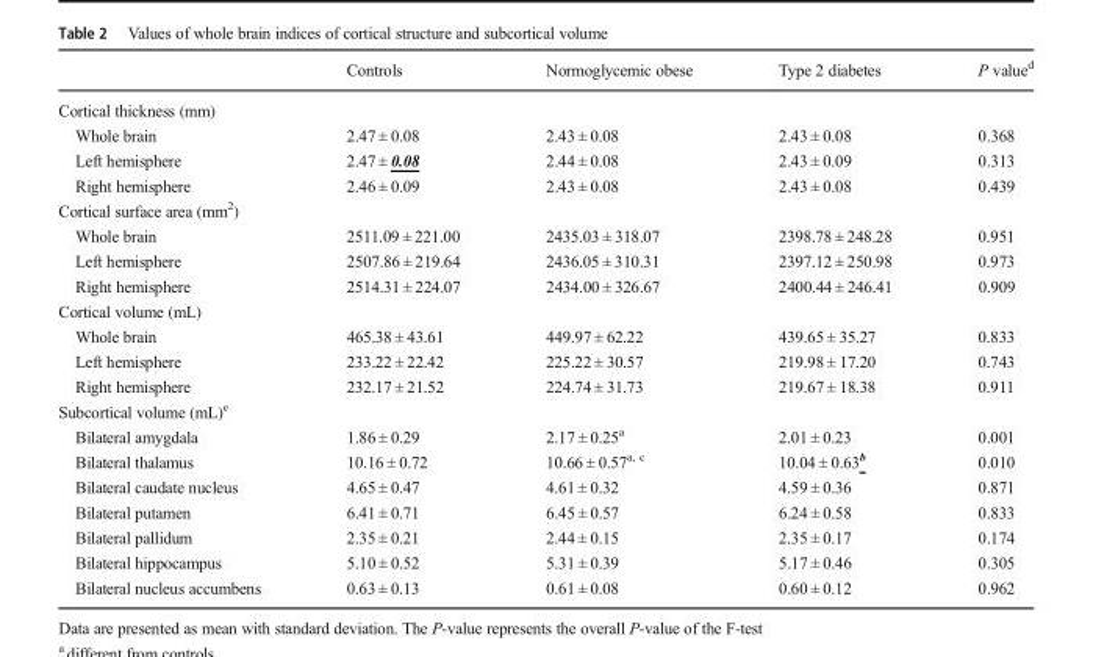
<table><thead><tr><td></td><td>Controls</td><td>Normoglycemic obese</td><td>Type 2 diabetes</td><td>P value<sup>d</sup></td></tr></thead><tbody><tr><td colspan="5">Cortical thickness (mm)</td></tr><tr><td>Whole brain</td><td>2.47 ± 0.08</td><td>2.43 ± 0.08</td><td>2.43 ± 0.08</td><td>0.368</td></tr><tr><td>Left hemisphere</td><td>2.47 ± 0.08</td><td>2.44 ± 0.08</td><td>2.43 ± 0.09</td><td>0.313</td></tr><tr><td>Right hemisphere</td><td>2.46 ± 0.09</td><td>2.43 ± 0.08</td><td>2.43 ± 0.08</td><td>0.439</td></tr><tr><td colspan="5">Cortical surface area (mm<sup>2</sup>)</td></tr><tr><td>Whole brain</td><td>2511.09 ± 221.00</td><td>2435.03 ± 318.07</td><td>2398.78 ± 248.28</td><td>0.951</td></tr><tr><td>Left hemisphere</td><td>2507.86 ± 219.64</td><td>2436.05 ± 310.31</td><td>2397.12 ± 250.98</td><td>0.973</td></tr><tr><td>Right hemisphere</td><td>2514.31 ± 224.07</td><td>2434.00 ± 326.67</td><td>2400.44 ± 246.41</td><td>0.909</td></tr><tr><td colspan="5">Cortical volume (mL)</td></tr><tr><td>Whole brain</td><td>465.38 ± 43.61</td><td>449.97 ± 62.22</td><td>439.65 ± 35.27</td><td>0.833</td></tr><tr><td>Left hemisphere</td><td>233.22 ± 22.42</td><td>225.22 ± 30.57</td><td>219.98 ± 17.20</td><td>0.743</td></tr><tr><td>Right hemisphere</td><td>232.17 ± 21.52</td><td>224.74 ± 31.73</td><td>219.67 ± 18.38</td><td>0.911</td></tr><tr><td colspan="5">Subcortical volume (mL)<sup>e</sup></td></tr><tr><td>Bilateral amygdala</td><td>1.86 ± 0.29</td><td>2.17 ± 0.25<sup>a</sup></td><td>2.01 ± 0.23</td><td>0.001</td></tr><tr><td>Bilateral thalamus</td><td>10.16 ± 0.72</td><td>10.66 ± 0.57<sup>a, c</sup></td><td>10.04 ± 0.63<sup>b</sup></td><td>0.010</td></tr><tr><td>Bilateral caudate nucleus</td><td>4.65 ± 0.47</td><td>4.61 ± 0.32</td><td>4.59 ± 0.36</td><td>0.871</td></tr><tr><td>Bilateral putamen</td><td>6.41 ± 0.71</td><td>6.45 ± 0.57</td><td>6.24 ± 0.58</td><td>0.833</td></tr><tr><td>Bilateral pallidum</td><td>2.35 ± 0.21</td><td>2.44 ± 0.15</td><td>2.35 ± 0.17</td><td>0.174</td></tr><tr><td>Bilateral hippocampus</td><td>5.10 ± 0.52</td><td>5.31 ± 0.39</td><td>5.17 ± 0.46</td><td>0.305</td></tr><tr><td>Bilateral nucleus accumbens</td><td>0.63 ± 0.13</td><td>0.61 ± 0.08</td><td>0.60 ± 0.12</td><td>0.962</td></tr></tbody></table>